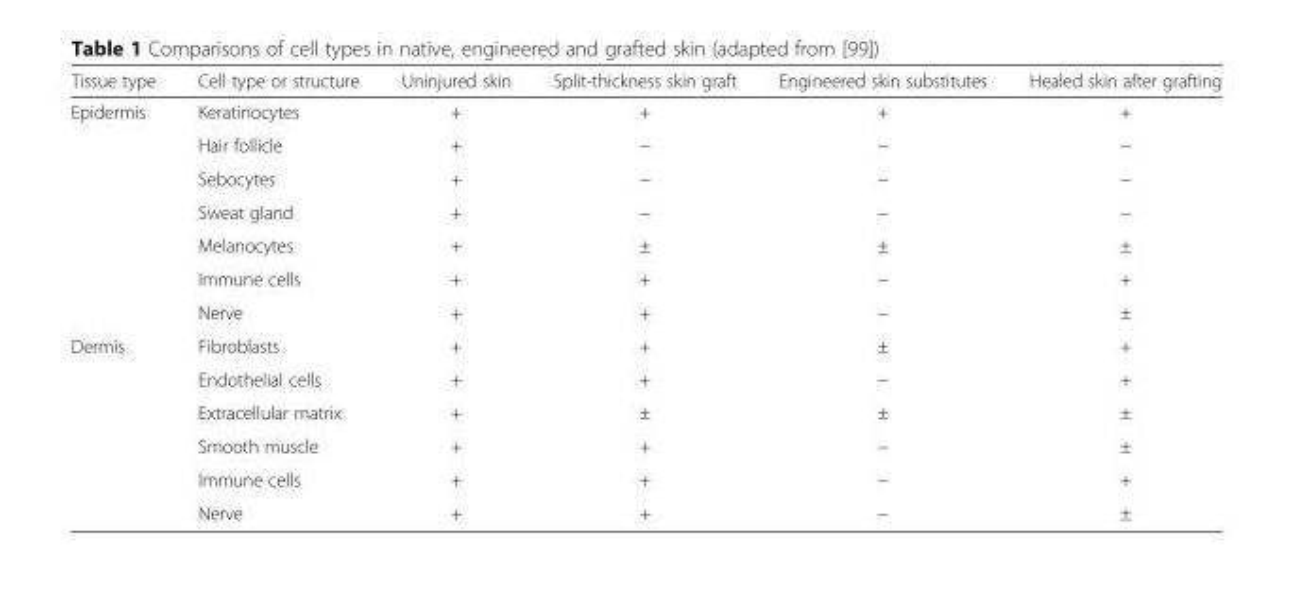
<table><thead><tr><td>Tissue type</td><td>Cell type or structure</td><td>Uninjured skin</td><td>Split-thickness skin graft</td><td>Engineered skin substitutes</td><td>Healed skin after grafting</td></tr></thead><tbody><tr><td rowspan="7">Epidermis</td><td>Keratinocytes</td><td>+</td><td>+</td><td>+</td><td>+</td></tr><tr><td>Hair follicle</td><td>+</td><td>−</td><td>−</td><td>−</td></tr><tr><td>Sebocytes</td><td>+</td><td>−</td><td>−</td><td>−</td></tr><tr><td>Sweat gland</td><td>+</td><td>−</td><td>−</td><td>−</td></tr><tr><td>Melanocytes</td><td>+</td><td>±</td><td>±</td><td>±</td></tr><tr><td>Immune cells</td><td>+</td><td>+</td><td>−</td><td>+</td></tr><tr><td>Nerve</td><td>+</td><td>+</td><td>−</td><td>±</td></tr><tr><td rowspan="6">Dermis</td><td>Fibroblasts</td><td>+</td><td>+</td><td>±</td><td>+</td></tr><tr><td>Endothelial cells</td><td>+</td><td>+</td><td>−</td><td>+</td></tr><tr><td>Extracellular matrix</td><td>+</td><td>±</td><td>±</td><td>±</td></tr><tr><td>Smooth muscle</td><td>+</td><td>+</td><td>−</td><td>±</td></tr><tr><td>Immune cells</td><td>+</td><td>+</td><td>−</td><td>+</td></tr><tr><td>Nerve</td><td>+</td><td>+</td><td>−</td><td>±</td></tr></tbody></table>